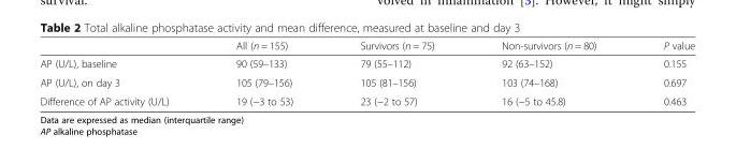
<table><thead><tr><td></td><td>All (n = 155)</td><td>Survivors (n = 75)</td><td>Non-survivors (n = 80)</td><td>P value</td></tr></thead><tbody><tr><td>AP (U/L), baseline</td><td>90 (59–133)</td><td>79 (55–112)</td><td>92 (63–152)</td><td>0.155</td></tr><tr><td>AP (U/L), on day 3</td><td>105 (79–156)</td><td>105 (81–156)</td><td>103 (74–168)</td><td>0.697</td></tr><tr><td>Difference of AP activity (U/L)</td><td>19 (−3 to 53)</td><td>23 (−2 to 57)</td><td>16 (−5 to 45.8)</td><td>0.463</td></tr></tbody></table>